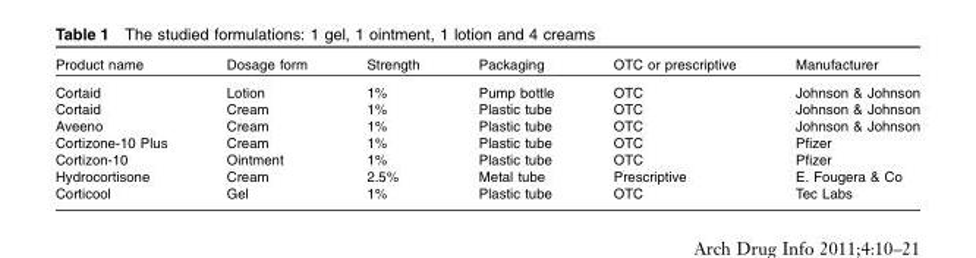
<table><thead><tr><td>Product name</td><td>Dosage form</td><td>Strength</td><td>Packaging</td><td>OTC or prescriptive</td><td>Manufacturer</td></tr></thead><tbody><tr><td>Cortaid</td><td>Lotion</td><td>1%</td><td>Pump bottle</td><td>OTC</td><td>Johnson &amp; Johnson</td></tr><tr><td>Cortaid</td><td>Cream</td><td>1%</td><td>Plastic tube</td><td>OTC</td><td>Johnson &amp; Johnson</td></tr><tr><td>Aveeno</td><td>Cream</td><td>1%</td><td>Plastic tube</td><td>OTC</td><td>Johnson &amp; Johnson</td></tr><tr><td>Cortizone-10 Plus</td><td>Cream</td><td>1%</td><td>Plastic tube</td><td>OTC</td><td>Pfizer</td></tr><tr><td>Cortizon-10</td><td>Ointment</td><td>1%</td><td>Plastic tube</td><td>OTC</td><td>Pfizer</td></tr><tr><td>Hydrocortisone</td><td>Cream</td><td>2.5%</td><td>Metal tube</td><td>Prescriptive</td><td>E. Fougera &amp; Co</td></tr><tr><td>Corticool</td><td>Gel</td><td>1%</td><td>Plastic tube</td><td>OTC</td><td>Tec Labs</td></tr></tbody></table>